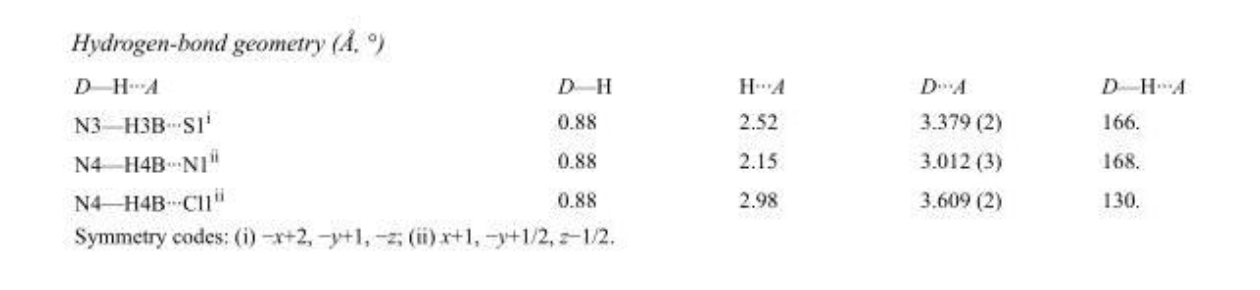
<table><tbody><tr><td>D—H···A</td><td>D—H</td><td>H···A</td><td>D···A</td><td>D—H···A</td></tr><tr><td>N3—H3B···S1<sup>i</sup></td><td>0.88</td><td>2.52</td><td>3.379 (2)</td><td>166.</td></tr><tr><td>N4—H4B···N1<sup>ii</sup></td><td>0.88</td><td>2.15</td><td>3.012 (3)</td><td>168.</td></tr><tr><td>N4—H4B···Cl1<sup>ii</sup></td><td>0.88</td><td>2.98</td><td>3.609 (2)</td><td>130.</td></tr></tbody></table>